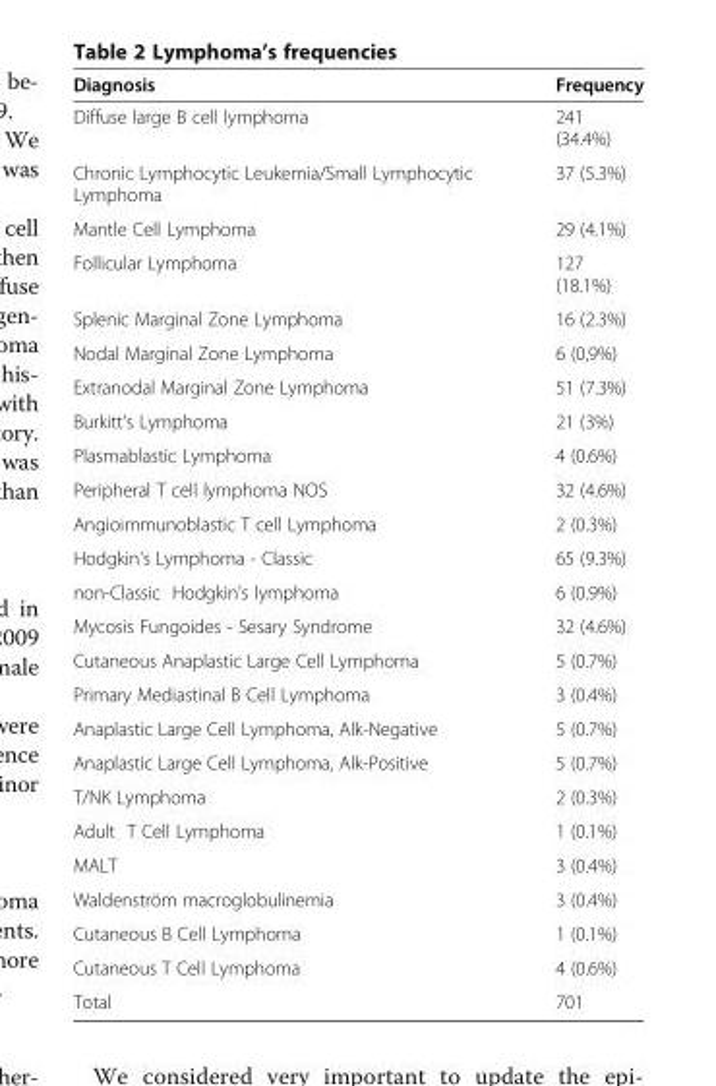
<table><thead><tr><td>Diagnosis</td><td>Frequency</td></tr></thead><tbody><tr><td>Diffuse large B cell lymphoma</td><td>241 (34.4%)</td></tr><tr><td>Chronic Lymphocytic Leukemia/Small Lymphocytic Lymphoma</td><td>37 (5.3%)</td></tr><tr><td>Mantle Cell Lymphoma</td><td>29 (4.1%)</td></tr><tr><td>Follicular Lymphoma</td><td>127 (18.1%)</td></tr><tr><td>Splenic Marginal Zone Lymphoma</td><td>16 (2.3%)</td></tr><tr><td>Nodal Marginal Zone Lymphoma</td><td>6 (0,9%)</td></tr><tr><td>Extranodal Marginal Zone Lymphoma</td><td>51 (7.3%)</td></tr><tr><td>Burkitt&#x27;s Lymphoma</td><td>21 (3%)</td></tr><tr><td>Plasmablastic Lymphoma</td><td>4 (0.6%)</td></tr><tr><td>Peripheral T cell lymphoma NOS</td><td>32 (4.6%)</td></tr><tr><td>Angioimmunoblastic T cell Lymphoma</td><td>2 (0.3%)</td></tr><tr><td>Hodgkin&#x27;s Lymphoma - Classic</td><td>65 (9.3%)</td></tr><tr><td>non-Classic Hodgkin&#x27;s lymphoma</td><td>6 (0.9%)</td></tr><tr><td>Mycosis Fungoides - Sesary Syndrome</td><td>32 (4.6%)</td></tr><tr><td>Cutaneous Anaplastic Large Cell Lymphoma</td><td>5 (0.7%)</td></tr><tr><td>Primary Mediastinal B Cell Lymphoma</td><td>3 (0.4%)</td></tr><tr><td>Anaplastic Large Cell Lymphoma, Alk-Negative</td><td>5 (0.7%)</td></tr><tr><td>Anaplastic Large Cell Lymphoma, Alk-Positive</td><td>5 (0.7%)</td></tr><tr><td>T/NK Lymphoma</td><td>2 (0.3%)</td></tr><tr><td>Adult T Cell Lymphoma</td><td>1 (0.1%)</td></tr><tr><td>MALT</td><td>3 (0.4%)</td></tr><tr><td>Waldenström macroglobulinemia</td><td>3 (0.4%)</td></tr><tr><td>Cutaneous B Cell Lymphoma</td><td>1 (0.1%)</td></tr><tr><td>Cutaneous T Cell Lymphoma</td><td>4 (0.6%)</td></tr><tr><td>Total</td><td>701</td></tr></tbody></table>